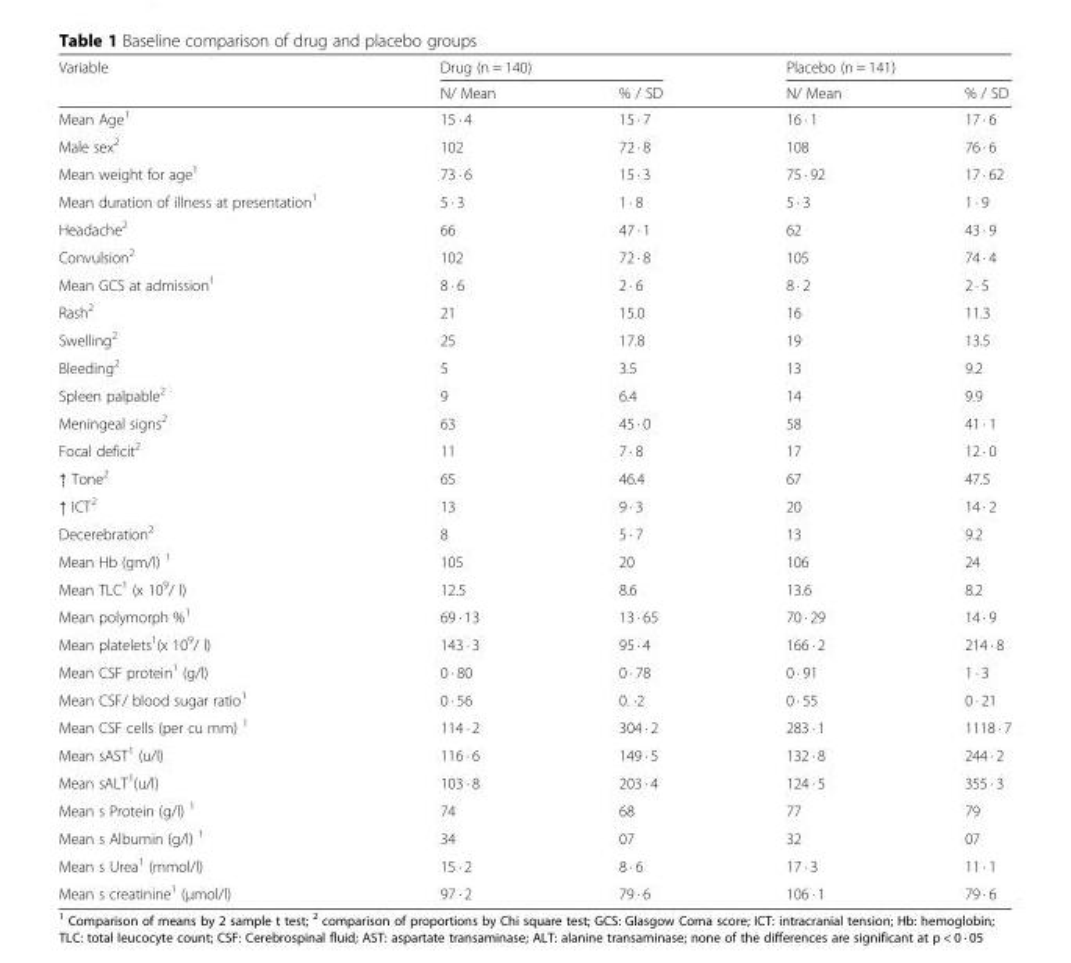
<table><thead><tr><td rowspan="2">Variable</td><td colspan="2">Drug (n = 140)</td><td colspan="2">Placebo (n = 141)</td></tr><tr><td>N/ Mean</td><td>% / SD</td><td>N/ Mean</td><td>% / SD</td></tr></thead><tbody><tr><td>Mean Age<sup>1</sup></td><td>15 · 4</td><td>15 · 7</td><td>16 · 1</td><td>17 · 6</td></tr><tr><td>Male sex<sup>2</sup></td><td>102</td><td>72 · 8</td><td>108</td><td>76 · 6</td></tr><tr><td>Mean weight for age<sup>1</sup></td><td>73 · 6</td><td>15 · 3</td><td>75 · 92</td><td>17 · 62</td></tr><tr><td>Mean duration of illness at presentation<sup>1</sup></td><td>5 · 3</td><td>1 · 8</td><td>5 · 3</td><td>1 · 9</td></tr><tr><td>Headache<sup>2</sup></td><td>66</td><td>47 · 1</td><td>62</td><td>43 · 9</td></tr><tr><td>Convulsion<sup>2</sup></td><td>102</td><td>72 · 8</td><td>105</td><td>74 · 4</td></tr><tr><td>Mean GCS at admission<sup>1</sup></td><td>8 · 6</td><td>2 · 6</td><td>8 · 2</td><td>2 · 5</td></tr><tr><td>Rash<sup>2</sup></td><td>21</td><td>15.0</td><td>16</td><td>11.3</td></tr><tr><td>Swelling<sup>2</sup></td><td>25</td><td>17.8</td><td>19</td><td>13.5</td></tr><tr><td>Bleeding<sup>2</sup></td><td>5</td><td>3.5</td><td>13</td><td>9.2</td></tr><tr><td>Spleen palpable<sup>2</sup></td><td>9</td><td>6.4</td><td>14</td><td>9.9</td></tr><tr><td>Meningeal signs<sup>2</sup></td><td>63</td><td>45 · 0</td><td>58</td><td>41 · 1</td></tr><tr><td>Focal deficit<sup>2</sup></td><td>11</td><td>7 · 8</td><td>17</td><td>12 · 0</td></tr><tr><td>↑ Tone<sup>2</sup></td><td>65</td><td>46.4</td><td>67</td><td>47.5</td></tr><tr><td>↑ ICT<sup>2</sup></td><td>13</td><td>9 · 3</td><td>20</td><td>14 · 2</td></tr><tr><td>Decerebration<sup>2</sup></td><td>8</td><td>5 · 7</td><td>13</td><td>9.2</td></tr><tr><td>Mean Hb (gm/l) <sup>1</sup></td><td>105</td><td>20</td><td>106</td><td>24</td></tr><tr><td>Mean TLC<sup>1</sup> (x 10<sup>9</sup>/ l)</td><td>12.5</td><td>8.6</td><td>13.6</td><td>8.2</td></tr><tr><td>Mean polymorph %<sup>1</sup></td><td>69 · 13</td><td>13 · 65</td><td>70 · 29</td><td>14 · 9</td></tr><tr><td>Mean platelets<sup>1</sup>(x 10<sup>9</sup>/ l)</td><td>143 · 3</td><td>95 · 4</td><td>166 · 2</td><td>214 · 8</td></tr><tr><td>Mean CSF protein<sup>1</sup> (g/l)</td><td>0 · 80</td><td>0 · 78</td><td>0 · 91</td><td>1 · 3</td></tr><tr><td>Mean CSF/ blood sugar ratio<sup>1</sup></td><td>0 · 56</td><td>0. ·2</td><td>0 · 55</td><td>0 · 21</td></tr><tr><td>Mean CSF cells (per cu mm) <sup>1</sup></td><td>114 · 2</td><td>304 · 2</td><td>283 · 1</td><td>1118 · 7</td></tr><tr><td>Mean sAST<sup>1</sup> (u/l)</td><td>116 · 6</td><td>149 · 5</td><td>132 · 8</td><td>244 · 2</td></tr><tr><td>Mean sALT<sup>1</sup>(u/l)</td><td>103 · 8</td><td>203 · 4</td><td>124 · 5</td><td>355 · 3</td></tr><tr><td>Mean s Protein (g/l) <sup>1</sup></td><td>74</td><td>68</td><td>77</td><td>79</td></tr><tr><td>Mean s Albumin (g/l) <sup>1</sup></td><td>34</td><td>07</td><td>32</td><td>07</td></tr><tr><td>Mean s Urea<sup>1</sup> (mmol/l)</td><td>15 · 2</td><td>8 · 6</td><td>17 · 3</td><td>11 · 1</td></tr><tr><td>Mean s creatinine<sup>1</sup> (μmol/l)</td><td>97 · 2</td><td>79 · 6</td><td>106 · 1</td><td>79 · 6</td></tr></tbody></table>